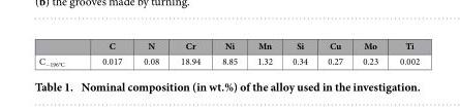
<table><thead><tr><td></td><td>C</td><td>N</td><td>Cr</td><td>Ni</td><td>Mn</td><td>Si</td><td>Cu</td><td>Mo</td><td>Ti</td></tr></thead><tbody><tr><td>C<sub>−196°C</sub></td><td>0.017</td><td>0.08</td><td>18.94</td><td>8.85</td><td>1.32</td><td>0.34</td><td>0.27</td><td>0.23</td><td>0.002</td></tr></tbody></table>